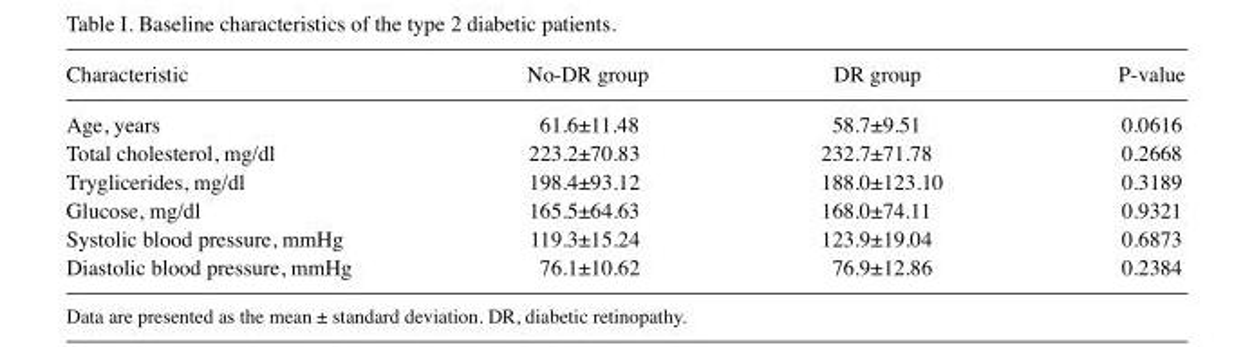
<table><thead><tr><td>Characteristic</td><td>No-DR group</td><td>DR group</td><td>P-value</td></tr></thead><tbody><tr><td>Age, years</td><td>61.6±11.48</td><td>58.7±9.51</td><td>0.0616</td></tr><tr><td>Total cholesterol, mg/dl</td><td>223.2±70.83</td><td>232.7±71.78</td><td>0.2668</td></tr><tr><td>Tryglicerides, mg/dl</td><td>198.4±93.12</td><td>188.0±123.10</td><td>0.3189</td></tr><tr><td>Glucose, mg/dl</td><td>165.5±64.63</td><td>168.0±74.11</td><td>0.9321</td></tr><tr><td>Systolic blood pressure, mmHg</td><td>119.3±15.24</td><td>123.9±19.04</td><td>0.6873</td></tr><tr><td>Diastolic blood pressure, mmHg</td><td>76.1±10.62</td><td>76.9±12.86</td><td>0.2384</td></tr></tbody></table>